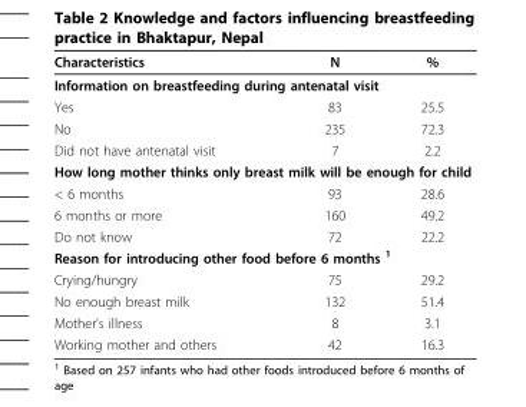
<table><thead><tr><td>Characteristics</td><td>N</td><td>%</td></tr></thead><tbody><tr><td colspan="3">Information on breastfeeding during antenatal visit</td></tr><tr><td>Yes</td><td>83</td><td>25.5</td></tr><tr><td>No</td><td>235</td><td>72.3</td></tr><tr><td>Did not have antenatal visit</td><td>7</td><td>2.2</td></tr><tr><td colspan="3">How long mother thinks only breast milk will be enough for child</td></tr><tr><td>&lt; 6 months</td><td>93</td><td>28.6</td></tr><tr><td>6 months or more</td><td>160</td><td>49.2</td></tr><tr><td>Do not know</td><td>72</td><td>22.2</td></tr><tr><td colspan="3">Reason for introducing other food before 6 months <sup>1</sup></td></tr><tr><td>Crying/hungry</td><td>75</td><td>29.2</td></tr><tr><td>No enough breast milk</td><td>132</td><td>51.4</td></tr><tr><td>Mother’s illness</td><td>8</td><td>3.1</td></tr><tr><td>Working mother and others</td><td>42</td><td>16.3</td></tr></tbody></table>